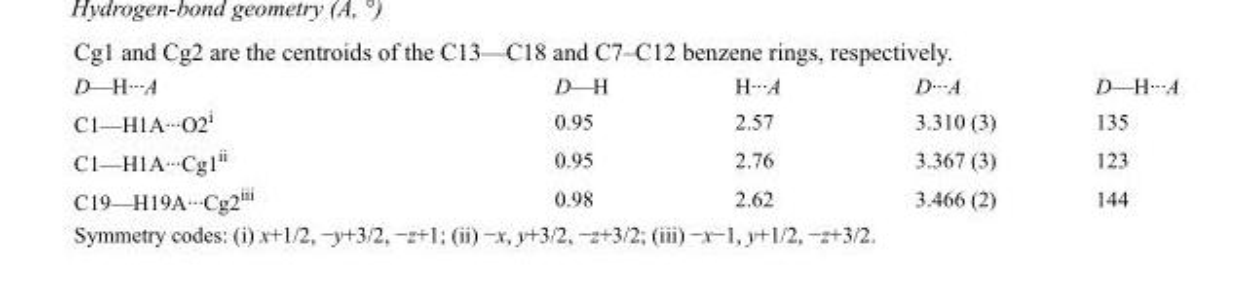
<table><tbody><tr><td>D—H···A</td><td>D—H</td><td>H···A</td><td>D···A</td><td>D—H···A</td></tr><tr><td>C1—H1A···O2<sup>i</sup></td><td>0.95</td><td>2.57</td><td>3.310 (3)</td><td>135</td></tr><tr><td>C1—H1A···Cg1<sup>ii</sup></td><td>0.95</td><td>2.76</td><td>3.367 (3)</td><td>123</td></tr><tr><td>C19—H19A···Cg2<sup>iii</sup></td><td>0.98</td><td>2.62</td><td>3.466 (2)</td><td>144</td></tr></tbody></table>